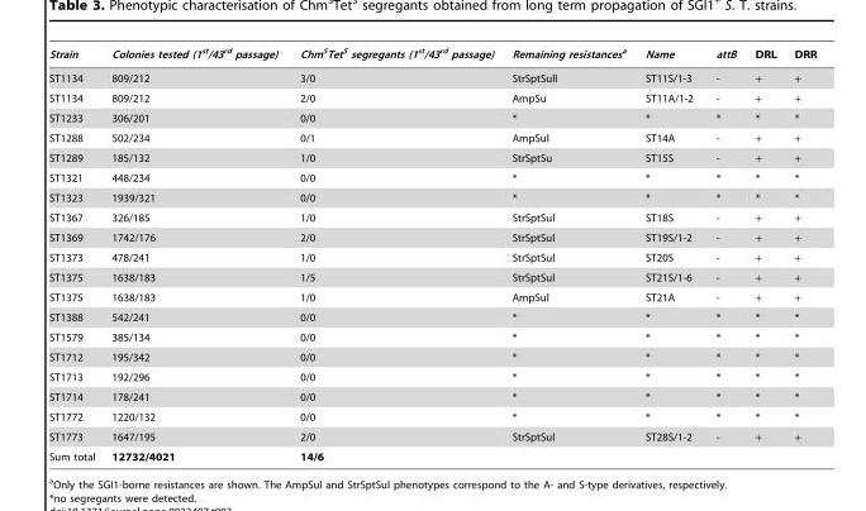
<table><thead><tr><td>Strain</td><td>Colonies tested (1<sup>st</sup>/43<sup>rd</sup> passage)</td><td>Chm<sup>S</sup>Tet<sup>S</sup> segregants (1<sup>st</sup>/43<sup>rd</sup> passage)</td><td>Remaining resistancesa</td><td>Name</td><td>attB</td><td>DRL</td><td>DRR</td></tr></thead><tbody><tr><td>ST1134</td><td>809/212</td><td>3/0</td><td>StrSptSull</td><td>ST11S/1-3</td><td>-</td><td>+</td><td>+</td></tr><tr><td>ST1134</td><td>809/212</td><td>2/0</td><td>AmpSu</td><td>ST11A/1-2</td><td>-</td><td>+</td><td>+</td></tr><tr><td>ST1233</td><td>306/201</td><td>0/0</td><td>*</td><td>*</td><td>*</td><td>*</td><td>*</td></tr><tr><td>ST1288</td><td>502/234</td><td>0/1</td><td>AmpSul</td><td>ST14A</td><td>-</td><td>+</td><td>+</td></tr><tr><td>ST1289</td><td>185/132</td><td>1/0</td><td>StrSptSu</td><td>ST15S</td><td>-</td><td>+</td><td>+</td></tr><tr><td>ST1321</td><td>448/234</td><td>0/0</td><td>*</td><td>*</td><td>*</td><td>*</td><td>*</td></tr><tr><td>ST1323</td><td>1939/321</td><td>0/0</td><td>*</td><td>*</td><td>*</td><td>*</td><td>*</td></tr><tr><td>ST1367</td><td>326/185</td><td>1/0</td><td>StrSptSul</td><td>ST18S</td><td>-</td><td>+</td><td>+</td></tr><tr><td>ST1369</td><td>1742/176</td><td>2/0</td><td>StrSptSul</td><td>ST19S/1-2</td><td>-</td><td>+</td><td>+</td></tr><tr><td>ST1373</td><td>478/241</td><td>1/0</td><td>StrSptSul</td><td>ST20S</td><td>-</td><td>+</td><td>+</td></tr><tr><td>ST1375</td><td>1638/183</td><td>1/5</td><td>StrSptSul</td><td>ST21S/1-6</td><td>-</td><td>+</td><td>+</td></tr><tr><td>ST1375</td><td>1638/183</td><td>1/0</td><td>AmpSul</td><td>ST21A</td><td>-</td><td>+</td><td>+</td></tr><tr><td>ST1388</td><td>542/241</td><td>0/0</td><td>*</td><td>*</td><td>*</td><td>*</td><td>*</td></tr><tr><td>ST1579</td><td>385/134</td><td>0/0</td><td>*</td><td>*</td><td>*</td><td>*</td><td>*</td></tr><tr><td>ST1712</td><td>195/342</td><td>0/0</td><td>*</td><td>*</td><td>*</td><td>*</td><td>*</td></tr><tr><td>ST1713</td><td>192/296</td><td>0/0</td><td>*</td><td>*</td><td>*</td><td>*</td><td>*</td></tr><tr><td>ST1714</td><td>178/241</td><td>0/0</td><td>*</td><td>*</td><td>*</td><td>*</td><td>*</td></tr><tr><td>ST1772</td><td>1220/132</td><td>0/0</td><td>*</td><td>*</td><td>*</td><td>*</td><td>*</td></tr><tr><td>ST1773</td><td>1647/195</td><td>2/0</td><td>StrSptSul</td><td>ST28S/1-2</td><td>-</td><td>+</td><td>+</td></tr><tr><td>Sum total</td><td>12732/4021</td><td>14/6</td><td></td><td></td><td></td><td></td><td></td></tr></tbody></table>